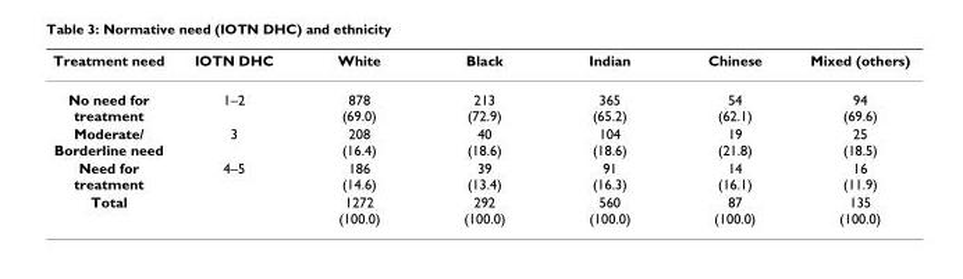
<table><thead><tr><td>Treatment need</td><td>IOTN DHC</td><td>White</td><td>Black</td><td>Indian</td><td>Chinese</td><td>Mixed (others)</td></tr></thead><tbody><tr><td>No need for treatment</td><td>1–2</td><td>878 (69.0)</td><td>213 (72.9)</td><td>365 (65.2)</td><td>54 (62.1)</td><td>94 (69.6)</td></tr><tr><td>Moderate/ Borderline need</td><td>3</td><td>208 (16.4)</td><td>40 (18.6)</td><td>104 (18.6)</td><td>19 (21.8)</td><td>25 (18.5)</td></tr><tr><td>Need for treatment</td><td>4–5</td><td>186 (14.6)</td><td>39 (13.4)</td><td>91 (16.3)</td><td>14 (16.1)</td><td>16 (11.9)</td></tr><tr><td>Total</td><td></td><td>1272 (100.0)</td><td>292 (100.0)</td><td>560 (100.0)</td><td>87 (100.0)</td><td>135 (100.0)</td></tr></tbody></table>